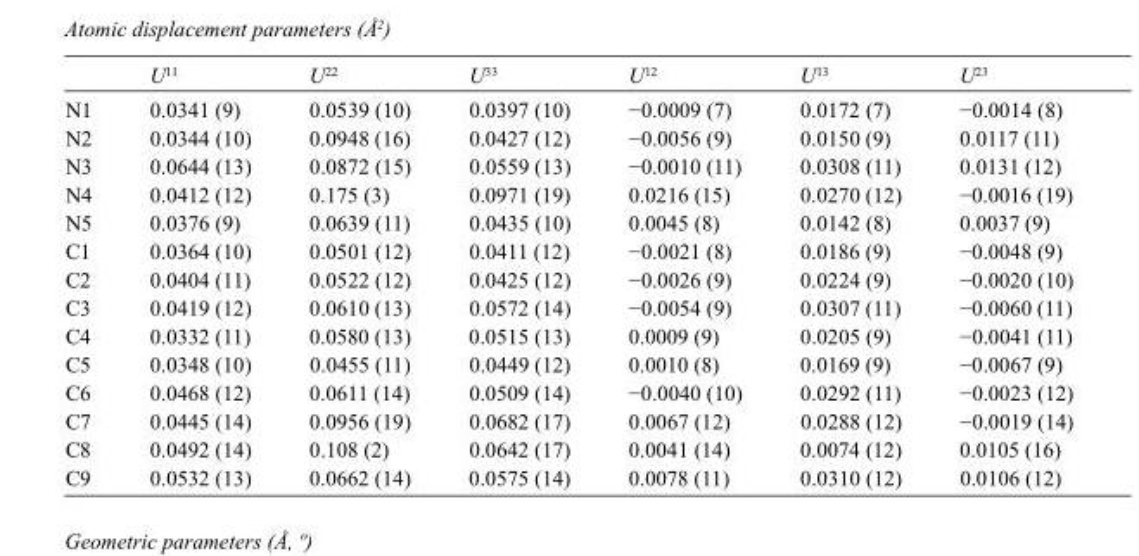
<table><thead><tr><td></td><td>U<sup>11</sup></td><td>U<sup>22</sup></td><td>U<sup>33</sup></td><td>U<sup>12</sup></td><td>U<sup>13</sup></td><td>U<sup>23</sup></td></tr></thead><tbody><tr><td>N1</td><td>0.0341 (9)</td><td>0.0539 (10)</td><td>0.0397 (10)</td><td>−0.0009 (7)</td><td>0.0172 (7)</td><td>−0.0014 (8)</td></tr><tr><td>N2</td><td>0.0344 (10)</td><td>0.0948 (16)</td><td>0.0427 (12)</td><td>−0.0056 (9)</td><td>0.0150 (9)</td><td>0.0117 (11)</td></tr><tr><td>N3</td><td>0.0644 (13)</td><td>0.0872 (15)</td><td>0.0559 (13)</td><td>−0.0010 (11)</td><td>0.0308 (11)</td><td>0.0131 (12)</td></tr><tr><td>N4</td><td>0.0412 (12)</td><td>0.175 (3)</td><td>0.0971 (19)</td><td>0.0216 (15)</td><td>0.0270 (12)</td><td>−0.0016 (19)</td></tr><tr><td>N5</td><td>0.0376 (9)</td><td>0.0639 (11)</td><td>0.0435 (10)</td><td>0.0045 (8)</td><td>0.0142 (8)</td><td>0.0037 (9)</td></tr><tr><td>C1</td><td>0.0364 (10)</td><td>0.0501 (12)</td><td>0.0411 (12)</td><td>−0.0021 (8)</td><td>0.0186 (9)</td><td>−0.0048 (9)</td></tr><tr><td>C2</td><td>0.0404 (11)</td><td>0.0522 (12)</td><td>0.0425 (12)</td><td>−0.0026 (9)</td><td>0.0224 (9)</td><td>−0.0020 (10)</td></tr><tr><td>C3</td><td>0.0419 (12)</td><td>0.0610 (13)</td><td>0.0572 (14)</td><td>−0.0054 (9)</td><td>0.0307 (11)</td><td>−0.0060 (11)</td></tr><tr><td>C4</td><td>0.0332 (11)</td><td>0.0580 (13)</td><td>0.0515 (13)</td><td>0.0009 (9)</td><td>0.0205 (9)</td><td>−0.0041 (11)</td></tr><tr><td>C5</td><td>0.0348 (10)</td><td>0.0455 (11)</td><td>0.0449 (12)</td><td>0.0010 (8)</td><td>0.0169 (9)</td><td>−0.0067 (9)</td></tr><tr><td>C6</td><td>0.0468 (12)</td><td>0.0611 (14)</td><td>0.0509 (14)</td><td>−0.0040 (10)</td><td>0.0292 (11)</td><td>−0.0023 (12)</td></tr><tr><td>C7</td><td>0.0445 (14)</td><td>0.0956 (19)</td><td>0.0682 (17)</td><td>0.0067 (12)</td><td>0.0288 (12)</td><td>−0.0019 (14)</td></tr><tr><td>C8</td><td>0.0492 (14)</td><td>0.108 (2)</td><td>0.0642 (17)</td><td>0.0041 (14)</td><td>0.0074 (12)</td><td>0.0105 (16)</td></tr><tr><td>C9</td><td>0.0532 (13)</td><td>0.0662 (14)</td><td>0.0575 (14)</td><td>0.0078 (11)</td><td>0.0310 (12)</td><td>0.0106 (12)</td></tr></tbody></table>